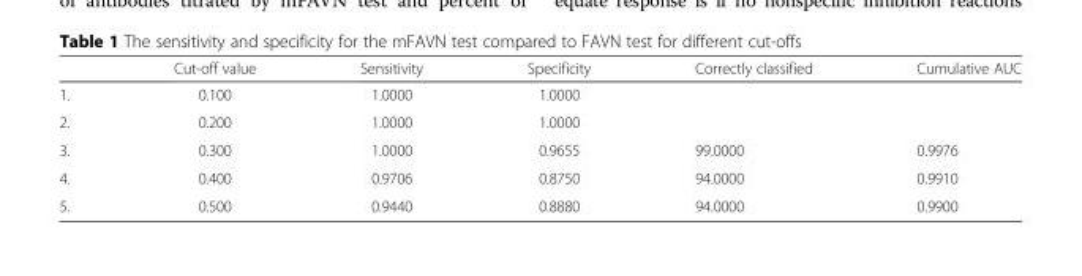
<table><thead><tr><td></td><td>Cut-off value</td><td>Sensitivity</td><td>Specificity</td><td>Correctly classified</td><td>Cumulative AUC</td></tr></thead><tbody><tr><td>1.</td><td>0.100</td><td>1.0000</td><td>1.0000</td><td></td><td></td></tr><tr><td>2.</td><td>0.200</td><td>1.0000</td><td>1.0000</td><td></td><td></td></tr><tr><td>3.</td><td>0.300</td><td>1.0000</td><td>0.9655</td><td>99.0000</td><td>0.9976</td></tr><tr><td>4.</td><td>0.400</td><td>0.9706</td><td>0.8750</td><td>94.0000</td><td>0.9910</td></tr><tr><td>5.</td><td>0.500</td><td>0.9440</td><td>0.8880</td><td>94.0000</td><td>0.9900</td></tr></tbody></table>